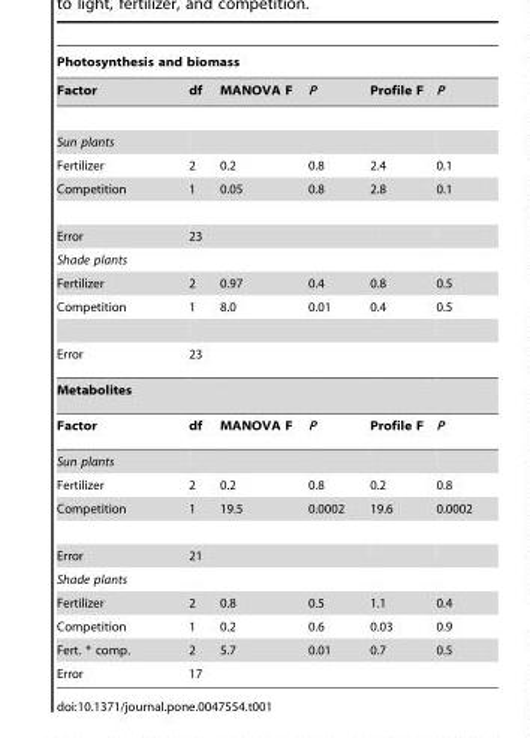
<table><thead><tr><td colspan="6">Photosynthesis and biomass</td></tr><tr><td>Factor</td><td>df</td><td>MANOVA F</td><td>P</td><td>Profile F</td><td>P</td></tr></thead><tbody><tr><td colspan="6">Sun plants</td></tr><tr><td>Fertilizer</td><td>2</td><td>0.2</td><td>0.8</td><td>2.4</td><td>0.1</td></tr><tr><td>Competition</td><td>1</td><td>0.05</td><td>0.8</td><td>2.8</td><td>0.1</td></tr><tr><td>Error</td><td>23</td><td></td><td></td><td></td><td></td></tr><tr><td colspan="6">Shade plants</td></tr><tr><td>Fertilizer</td><td>2</td><td>0.97</td><td>0.4</td><td>0.8</td><td>0.5</td></tr><tr><td>Competition</td><td>1</td><td>8.0</td><td>0.01</td><td>0.4</td><td>0.5</td></tr><tr><td>Error</td><td>23</td><td></td><td></td><td></td><td></td></tr><tr><td colspan="6">Metabolites</td></tr><tr><td>Factor</td><td>df</td><td>MANOVA F</td><td>P</td><td>Profile F</td><td>P</td></tr><tr><td colspan="6">Sun plants</td></tr><tr><td>Fertilizer</td><td>2</td><td>0.2</td><td>0.8</td><td>0.2</td><td>0.8</td></tr><tr><td>Competition</td><td>1</td><td>19.5</td><td>0.0002</td><td>19.6</td><td>0.0002</td></tr><tr><td>Error</td><td>21</td><td></td><td></td><td></td><td></td></tr><tr><td colspan="6">Shade plants</td></tr><tr><td>Fertilizer</td><td>2</td><td>0.8</td><td>0.5</td><td>1.1</td><td>0.4</td></tr><tr><td>Competition</td><td>1</td><td>0.2</td><td>0.6</td><td>0.03</td><td>0.9</td></tr><tr><td>Fert. * comp.</td><td>2</td><td>5.7</td><td>0.01</td><td>0.7</td><td>0.5</td></tr><tr><td>Error</td><td>17</td><td></td><td></td><td></td><td></td></tr></tbody></table>